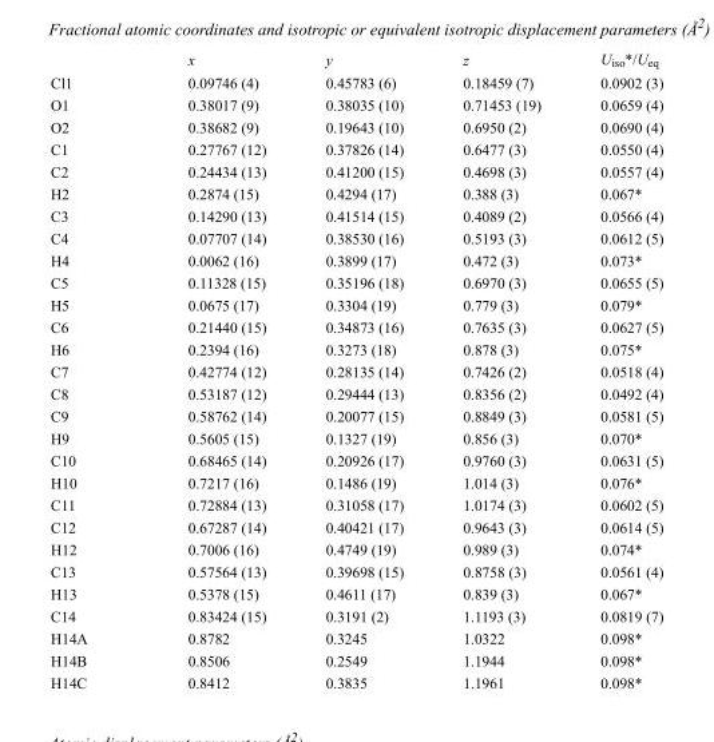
<table><thead><tr><td></td><td>x</td><td>y</td><td>z</td><td>U<sub>iso</sub>*/U<sub>eq</sub></td></tr></thead><tbody><tr><td>Cl1</td><td>0.09746 (4)</td><td>0.45783 (6)</td><td>0.18459 (7)</td><td>0.0902 (3)</td></tr><tr><td>O1</td><td>0.38017 (9)</td><td>0.38035 (10)</td><td>0.71453 (19)</td><td>0.0659 (4)</td></tr><tr><td>O2</td><td>0.38682 (9)</td><td>0.19643 (10)</td><td>0.6950 (2)</td><td>0.0690 (4)</td></tr><tr><td>C1</td><td>0.27767 (12)</td><td>0.37826 (14)</td><td>0.6477 (3)</td><td>0.0550 (4)</td></tr><tr><td>C2</td><td>0.24434 (13)</td><td>0.41200 (15)</td><td>0.4698 (3)</td><td>0.0557 (4)</td></tr><tr><td>H2</td><td>0.2874 (15)</td><td>0.4294 (17)</td><td>0.388 (3)</td><td>0.067*</td></tr><tr><td>C3</td><td>0.14290 (13)</td><td>0.41514 (15)</td><td>0.4089 (2)</td><td>0.0566 (4)</td></tr><tr><td>C4</td><td>0.07707 (14)</td><td>0.38530 (16)</td><td>0.5193 (3)</td><td>0.0612 (5)</td></tr><tr><td>H4</td><td>0.0062 (16)</td><td>0.3899 (17)</td><td>0.472 (3)</td><td>0.073*</td></tr><tr><td>C5</td><td>0.11328 (15)</td><td>0.35196 (18)</td><td>0.6970 (3)</td><td>0.0655 (5)</td></tr><tr><td>H5</td><td>0.0675 (17)</td><td>0.3304 (19)</td><td>0.779 (3)</td><td>0.079*</td></tr><tr><td>C6</td><td>0.21440 (15)</td><td>0.34873 (16)</td><td>0.7635 (3)</td><td>0.0627 (5)</td></tr><tr><td>H6</td><td>0.2394 (16)</td><td>0.3273 (18)</td><td>0.878 (3)</td><td>0.075*</td></tr><tr><td>C7</td><td>0.42774 (12)</td><td>0.28135 (14)</td><td>0.7426 (2)</td><td>0.0518 (4)</td></tr><tr><td>C8</td><td>0.53187 (12)</td><td>0.29444 (13)</td><td>0.8356 (2)</td><td>0.0492 (4)</td></tr><tr><td>C9</td><td>0.58762 (14)</td><td>0.20077 (15)</td><td>0.8849 (3)</td><td>0.0581 (5)</td></tr><tr><td>H9</td><td>0.5605 (15)</td><td>0.1327 (19)</td><td>0.856 (3)</td><td>0.070*</td></tr><tr><td>C10</td><td>0.68465 (14)</td><td>0.20926 (17)</td><td>0.9760 (3)</td><td>0.0631 (5)</td></tr><tr><td>H10</td><td>0.7217 (16)</td><td>0.1486 (19)</td><td>1.014 (3)</td><td>0.076*</td></tr><tr><td>C11</td><td>0.72884 (13)</td><td>0.31058 (17)</td><td>1.0174 (3)</td><td>0.0602 (5)</td></tr><tr><td>C12</td><td>0.67287 (14)</td><td>0.40421 (17)</td><td>0.9643 (3)</td><td>0.0614 (5)</td></tr><tr><td>H12</td><td>0.7006 (16)</td><td>0.4749 (19)</td><td>0.989 (3)</td><td>0.074*</td></tr><tr><td>C13</td><td>0.57564 (13)</td><td>0.39698 (15)</td><td>0.8758 (3)</td><td>0.0561 (4)</td></tr><tr><td>H13</td><td>0.5378 (15)</td><td>0.4611 (17)</td><td>0.839 (3)</td><td>0.067*</td></tr><tr><td>C14</td><td>0.83424 (15)</td><td>0.3191 (2)</td><td>1.1193 (3)</td><td>0.0819 (7)</td></tr><tr><td>H14A</td><td>0.8782</td><td>0.3245</td><td>1.0322</td><td>0.098*</td></tr><tr><td>H14B</td><td>0.8506</td><td>0.2549</td><td>1.1944</td><td>0.098*</td></tr><tr><td>H14C</td><td>0.8412</td><td>0.3835</td><td>1.1961</td><td>0.098*</td></tr></tbody></table>